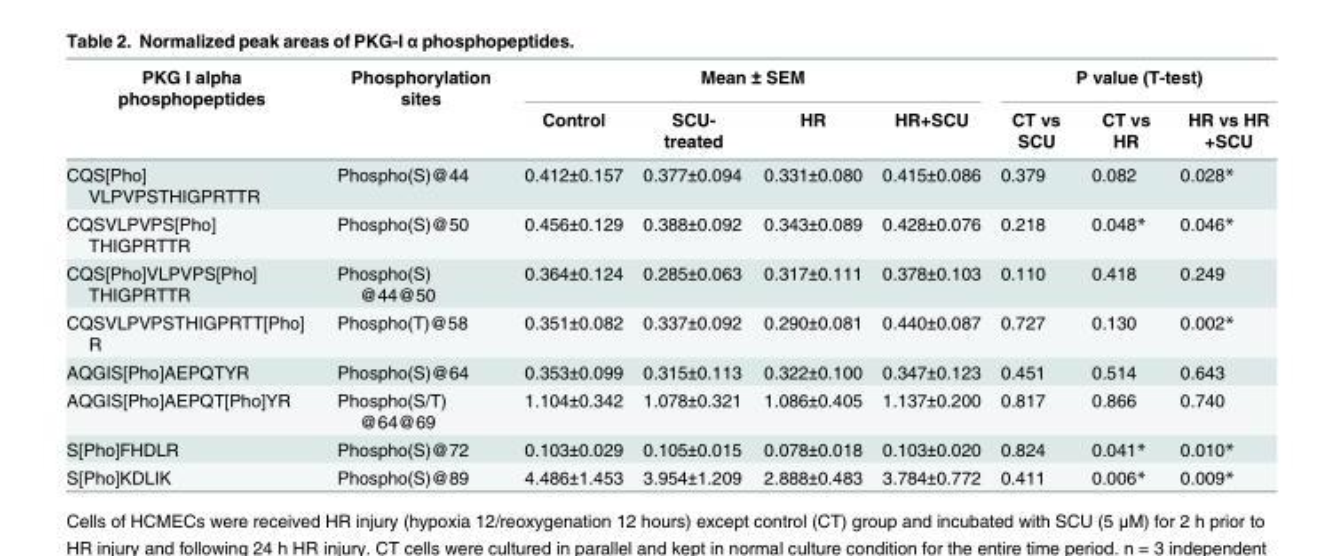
<table><thead><tr><td rowspan="2">PKG I alpha phosphopeptides</td><td rowspan="2">Phosphorylation sites</td><td colspan="4">Mean ± SEM</td><td colspan="3">P value (T-test)</td></tr><tr><td>Control</td><td>SCU- treated</td><td>HR</td><td>HR+SCU</td><td>CT vs SCU</td><td>CT vs HR</td><td>HR vs HR +SCU</td></tr></thead><tbody><tr><td>CQS[Pho] VLPVPSTHIGPRTTR</td><td>Phospho(S)@44</td><td>0.412±0.157</td><td>0.377±0.094</td><td>0.331±0.080</td><td>0.415±0.086</td><td>0.379</td><td>0.082</td><td>0.028*</td></tr><tr><td>CQSVLPVPS[Pho] THIGPRTTR</td><td>Phospho(S)@50</td><td>0.456±0.129</td><td>0.388±0.092</td><td>0.343±0.089</td><td>0.428±0.076</td><td>0.218</td><td>0.048*</td><td>0.046*</td></tr><tr><td>CQS[Pho]VLPVPS[Pho] THIGPRTTR</td><td>Phospho(S) @44@50</td><td>0.364±0.124</td><td>0.285±0.063</td><td>0.317±0.111</td><td>0.378±0.103</td><td>0.110</td><td>0.418</td><td>0.249</td></tr><tr><td>CQSVLPVPSTHIGPRTT[Pho] R</td><td>Phospho(T)@58</td><td>0.351±0.082</td><td>0.337±0.092</td><td>0.290±0.081</td><td>0.440±0.087</td><td>0.727</td><td>0.130</td><td>0.002*</td></tr><tr><td>AQGIS[Pho]AEPQTYR</td><td>Phospho(S)@64</td><td>0.353±0.099</td><td>0.315±0.113</td><td>0.322±0.100</td><td>0.347±0.123</td><td>0.451</td><td>0.514</td><td>0.643</td></tr><tr><td>AQGIS[Pho]AEPQT[Pho]YR</td><td>Phospho(S/T) @64@69</td><td>1.104±0.342</td><td>1.078±0.321</td><td>1.086±0.405</td><td>1.137±0.200</td><td>0.817</td><td>0.866</td><td>0.740</td></tr><tr><td>S[Pho]FHDLR</td><td>Phospho(S)@72</td><td>0.103±0.029</td><td>0.105±0.015</td><td>0.078±0.018</td><td>0.103±0.020</td><td>0.824</td><td>0.041*</td><td>0.010*</td></tr><tr><td>S[Pho]KDLIK</td><td>Phospho(S)@89</td><td>4.486±1.453</td><td>3.954±1.209</td><td>2.888±0.483</td><td>3.784±0.772</td><td>0.411</td><td>0.006*</td><td>0.009*</td></tr></tbody></table>